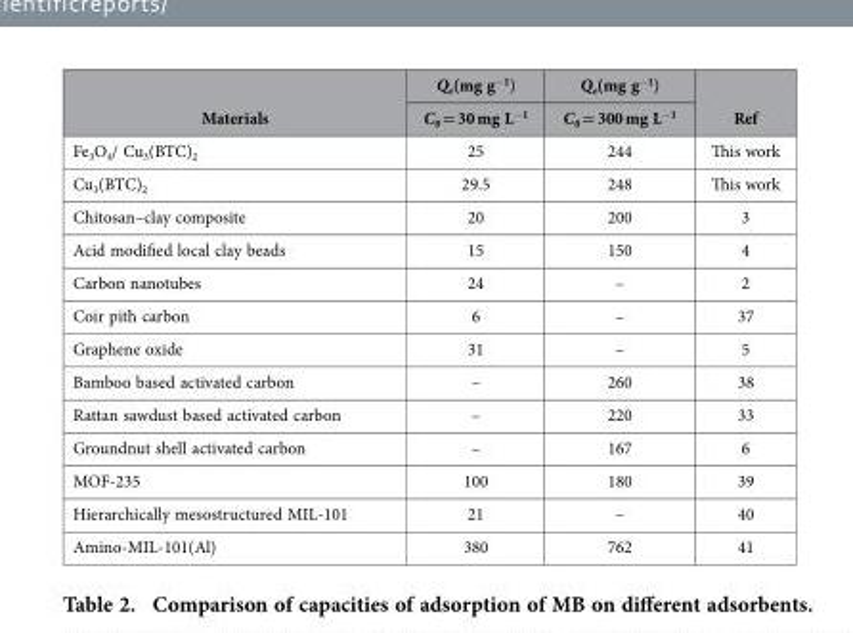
<table><thead><tr><td rowspan="2">Materials</td><td rowspan="2">Q<sub>e</sub>(mg g<sup>−1</sup>) C<sub>0</sub> = 30 mg L<sup>−1</sup></td><td rowspan="2">Q<sub>e</sub>(mg g<sup>−1</sup>) C<sub>0</sub> = 300 mg L<sup>−1</sup></td><td rowspan="2">Ref</td></tr><tr></tr></thead><tbody><tr><td>Fe<sub>3</sub>O<sub>4</sub>/ Cu<sub>3</sub>(BTC)<sub>2</sub></td><td>25</td><td>244</td><td>This work</td></tr><tr><td>Cu<sub>3</sub>(BTC)<sub>2</sub></td><td>29.5</td><td>248</td><td>This work</td></tr><tr><td>Chitosan–clay composite</td><td>20</td><td>200</td><td>3</td></tr><tr><td>Acid modified local clay beads</td><td>15</td><td>150</td><td>4</td></tr><tr><td>Carbon nanotubes</td><td>24</td><td>–</td><td>2</td></tr><tr><td>Coir pith carbon</td><td>6</td><td>–</td><td>37</td></tr><tr><td>Graphene oxide</td><td>31</td><td>–</td><td>5</td></tr><tr><td>Bamboo based activated carbon</td><td>–</td><td>260</td><td>38</td></tr><tr><td>Rattan sawdust based activated carbon</td><td>–</td><td>220</td><td>33</td></tr><tr><td>Groundnut shell activated carbon</td><td>–</td><td>167</td><td>6</td></tr><tr><td>MOF-235</td><td>100</td><td>180</td><td>39</td></tr><tr><td>Hierarchically mesostructured MIL-101</td><td>21</td><td>–</td><td>40</td></tr><tr><td>Amino-MIL-101(Al)</td><td>380</td><td>762</td><td>41</td></tr></tbody></table>